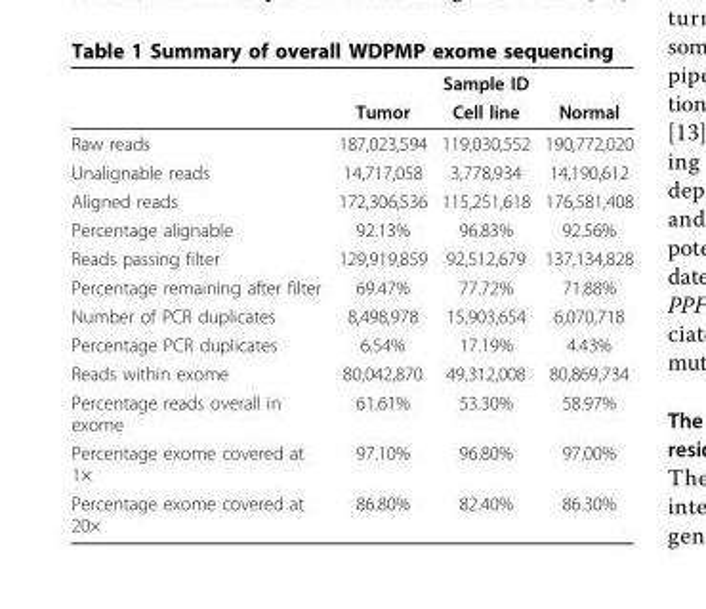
<table><thead><tr><td rowspan="2"></td><td colspan="3">Sample ID</td></tr><tr><td>Tumor</td><td>Cell line</td><td>Normal</td></tr></thead><tbody><tr><td>Raw reads</td><td>187,023,594</td><td>119,030,552</td><td>190,772,020</td></tr><tr><td>Unalignable reads</td><td>14,717,058</td><td>3,778,934</td><td>14,190,612</td></tr><tr><td>Aligned reads</td><td>172,306,536</td><td>115,251,618</td><td>176,581,408</td></tr><tr><td>Percentage alignable</td><td>92.13%</td><td>96.83%</td><td>92.56%</td></tr><tr><td>Reads passing filter</td><td>129,919,859</td><td>92,512,679</td><td>137,134,828</td></tr><tr><td>Percentage remaining after filter</td><td>69.47%</td><td>77.72%</td><td>71.88%</td></tr><tr><td>Number of PCR duplicates</td><td>8,498,978</td><td>15,903,654</td><td>6,070,718</td></tr><tr><td>Percentage PCR duplicates</td><td>6.54%</td><td>17.19%</td><td>4.43%</td></tr><tr><td>Reads within exome</td><td>80,042,870</td><td>49,312,008</td><td>80,869,734</td></tr><tr><td>Percentage reads overall in exome</td><td>61.61%</td><td>53.30%</td><td>58.97%</td></tr><tr><td>Percentage exome covered at 1×</td><td>97.10%</td><td>96.80%</td><td>97.00%</td></tr><tr><td>Percentage exome covered at 20×</td><td>86.80%</td><td>82.40%</td><td>86.30%</td></tr></tbody></table>